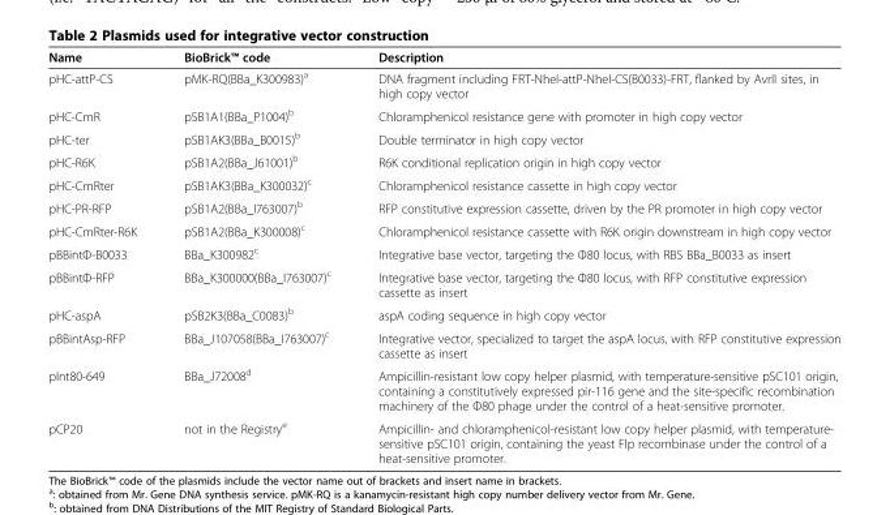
<table><thead><tr><td>Name</td><td>BioBrick™ code</td><td>Description</td></tr></thead><tbody><tr><td>pHC-attP-CS</td><td>pMK-RQ(BBa_K300983)<sup>a</sup></td><td>DNA fragment including FRT-NheI-attP-NheI-CS(B0033)-FRT, flanked by AvrII sites, in high copy vector</td></tr><tr><td>pHC-CmR</td><td>pSB1A1(BBa_P1004)<sup>b</sup></td><td>Chloramphenicol resistance gene with promoter in high copy vector</td></tr><tr><td>pHC-ter</td><td>pSB1AK3(BBa_B0015)<sup>b</sup></td><td>Double terminator in high copy vector</td></tr><tr><td>pHC-R6K</td><td>pSB1A2(BBa_J61001)<sup>b</sup></td><td>R6K conditional replication origin in high copy vector</td></tr><tr><td>pHC-CmRter</td><td>pSB1AK3(BBa_K300032)<sup>c</sup></td><td>Chloramphenicol resistance cassette in high copy vector</td></tr><tr><td>pHC-PR-RFP</td><td>pSB1A2(BBa_I763007)<sup>b</sup></td><td>RFP constitutive expression cassette, driven by the PR promoter in high copy vector</td></tr><tr><td>pHC-CmRter-R6K</td><td>pSB1A2(BBa_K300008)<sup>c</sup></td><td>Chloramphenicol resistance cassette with R6K origin downstream in high copy vector</td></tr><tr><td>pBBintФ-B0033</td><td>BBa_K300982<sup>c</sup></td><td>Integrative base vector, targeting the Ф80 locus, with RBS BBa_B0033 as insert</td></tr><tr><td>pBBintФ-RFP</td><td>BBa_K300000(BBa_I763007)<sup>c</sup></td><td>Integrative base vector, targeting the Ф80 locus, with RFP constitutive expression cassette as insert</td></tr><tr><td>pHC-aspA</td><td>pSB2K3(BBa_C0083)<sup>b</sup></td><td>aspA coding sequence in high copy vector</td></tr><tr><td>pBBintAsp-RFP</td><td>BBa_J107058(BBa_I763007)<sup>c</sup></td><td>Integrative vector, specialized to target the aspA locus, with RFP constitutive expression cassette as insert</td></tr><tr><td>pInt80-649</td><td>BBa_J72008<sup>d</sup></td><td>Ampicillin-resistant low copy helper plasmid, with temperature-sensitive pSC101 origin, containing a constitutively expressed pir-116 gene and the site-specific recombination machinery of the Ф80 phage under the control of a heat-sensitive promoter.</td></tr><tr><td>pCP20</td><td>not in the Registry<sup>e</sup></td><td>Ampicillin- and chloramphenicol-resistant low copy helper plasmid, with temperature- sensitive pSC101 origin, containing the yeast Flp recombinase under the control of a heat-sensitive promoter.</td></tr></tbody></table>